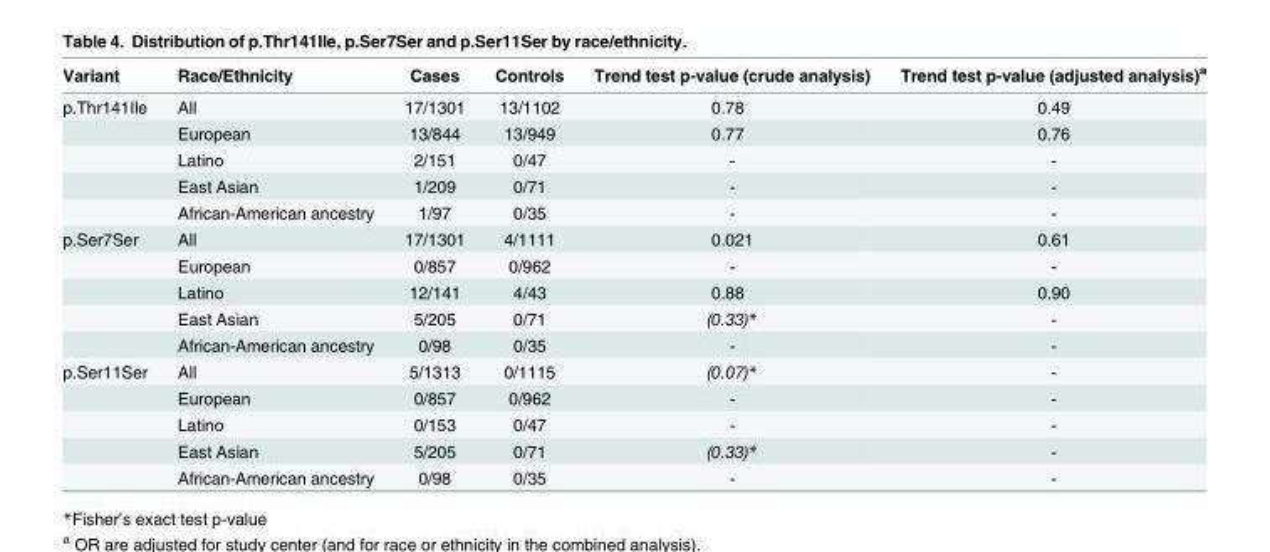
<table><thead><tr><td>Variant</td><td>Race/Ethnicity</td><td>Cases</td><td>Controls</td><td>Trend test p-value (crude analysis)</td><td>Trend test p-value (adjusted analysis)<sup>a</sup></td></tr></thead><tbody><tr><td rowspan="5">p.Thr141Ile</td><td>All</td><td>17/1301</td><td>13/1102</td><td>0.78</td><td>0.49</td></tr><tr><td>European</td><td>13/844</td><td>13/949</td><td>0.77</td><td>0.76</td></tr><tr><td>Latino</td><td>2/151</td><td>0/47</td><td>-</td><td>-</td></tr><tr><td>East Asian</td><td>1/209</td><td>0/71</td><td>-</td><td>-</td></tr><tr><td>African-American ancestry</td><td>1/97</td><td>0/35</td><td>-</td><td>-</td></tr><tr><td rowspan="5">p.Ser7Ser</td><td>All</td><td>17/1301</td><td>4/1111</td><td>0.021</td><td>0.61</td></tr><tr><td>European</td><td>0/857</td><td>0/962</td><td>-</td><td>-</td></tr><tr><td>Latino</td><td>12/141</td><td>4/43</td><td>0.88</td><td>0.90</td></tr><tr><td>East Asian</td><td>5/205</td><td>0/71</td><td>(0.33)*</td><td>-</td></tr><tr><td>African-American ancestry</td><td>0/98</td><td>0/35</td><td>-</td><td>-</td></tr><tr><td rowspan="5">p.Ser11Ser</td><td>All</td><td>5/1313</td><td>0/1115</td><td>(0.07)*</td><td>-</td></tr><tr><td>European</td><td>0/857</td><td>0/962</td><td>-</td><td>-</td></tr><tr><td>Latino</td><td>0/153</td><td>0/47</td><td>-</td><td>-</td></tr><tr><td>East Asian</td><td>5/205</td><td>0/71</td><td>(0.33)*</td><td>-</td></tr><tr><td>African-American ancestry</td><td>0/98</td><td>0/35</td><td>-</td><td>-</td></tr></tbody></table>